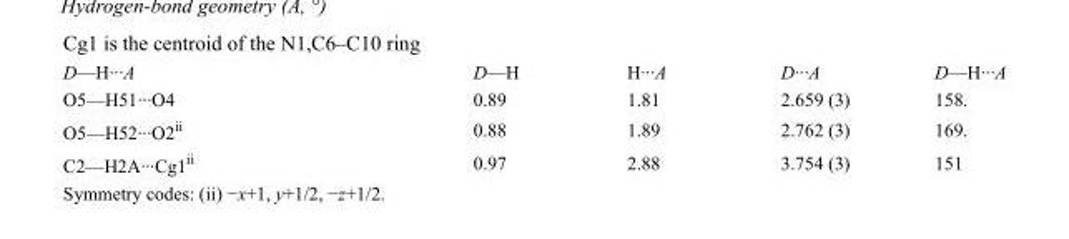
<table><tbody><tr><td>D—H···A</td><td>D—H</td><td>H···A</td><td>D···A</td><td>D—H···A</td></tr><tr><td>O5—H51···O4</td><td>0.89</td><td>1.81</td><td>2.659 (3)</td><td>158.</td></tr><tr><td>O5—H52···O2<sup>ii</sup></td><td>0.88</td><td>1.89</td><td>2.762 (3)</td><td>169.</td></tr><tr><td>C2—H2A···Cg1<sup>ii</sup></td><td>0.97</td><td>2.88</td><td>3.754 (3)</td><td>151</td></tr></tbody></table>